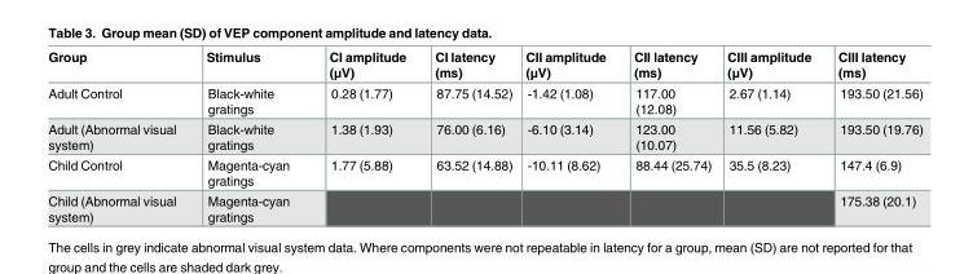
<table><thead><tr><td>Group</td><td>Stimulus</td><td>CI amplitude (μV)</td><td>CI latency (ms)</td><td>CII amplitude (μV)</td><td>CII latency (ms)</td><td>CIII amplitude (μV)</td><td>CIII latency (ms)</td></tr></thead><tbody><tr><td>Adult Control</td><td>Black-white gratings</td><td>0.28 (1.77)</td><td>87.75 (14.52)</td><td>-1.42 (1.08)</td><td>117.00 (12.08)</td><td>2.67 (1.14)</td><td>193.50 (21.56)</td></tr><tr><td>Adult (Abnormal visual system)</td><td>Black-white gratings</td><td>1.38 (1.93)</td><td>76.00 (6.16)</td><td>-6.10 (3.14)</td><td>123.00 (10.07)</td><td>11.56 (5.82)</td><td>193.50 (19.76)</td></tr><tr><td>Child Control</td><td>Magenta-cyan gratings</td><td>1.77 (5.88)</td><td>63.52 (14.88)</td><td>-10.11 (8.62)</td><td>88.44 (25.74)</td><td>35.5 (8.23)</td><td>147.4 (6.9)</td></tr><tr><td>Child (Abnormal visual system)</td><td>Magenta-cyan gratings</td><td></td><td></td><td></td><td></td><td></td><td>175.38 (20.1)</td></tr></tbody></table>